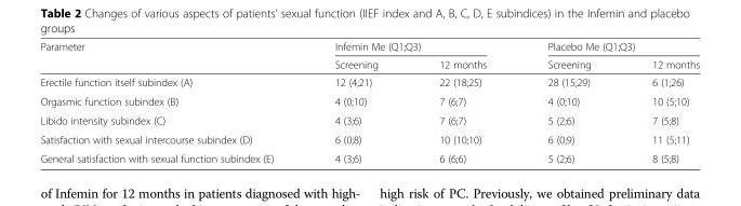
<table><thead><tr><td rowspan="2">Parameter</td><td colspan="2">Infemin Me (Q1;Q3)</td><td colspan="2">Placebo Me (Q1;Q3)</td></tr><tr><td>Screening</td><td>12 months</td><td>Screening</td><td>12 months</td></tr></thead><tbody><tr><td>Erectile function itself subindex (A)</td><td>12 (4;21)</td><td>22 (18;25)</td><td>28 (15;29)</td><td>6 (1;26)</td></tr><tr><td>Orgasmic function subindex (B)</td><td>4 (0;10)</td><td>7 (6;7)</td><td>4 (0;10)</td><td>10 (5;10)</td></tr><tr><td>Libido intensity subindex (C)</td><td>4 (3;6)</td><td>7 (6;7)</td><td>5 (2;6)</td><td>7 (5;8)</td></tr><tr><td>Satisfaction with sexual intercourse subindex (D)</td><td>6 (0;8)</td><td>10 (10;10)</td><td>6 (0;9)</td><td>11 (5;11)</td></tr><tr><td>General satisfaction with sexual function subindex (E)</td><td>4 (3;6)</td><td>6 (6;6)</td><td>5 (2;6)</td><td>8 (5;8)</td></tr></tbody></table>